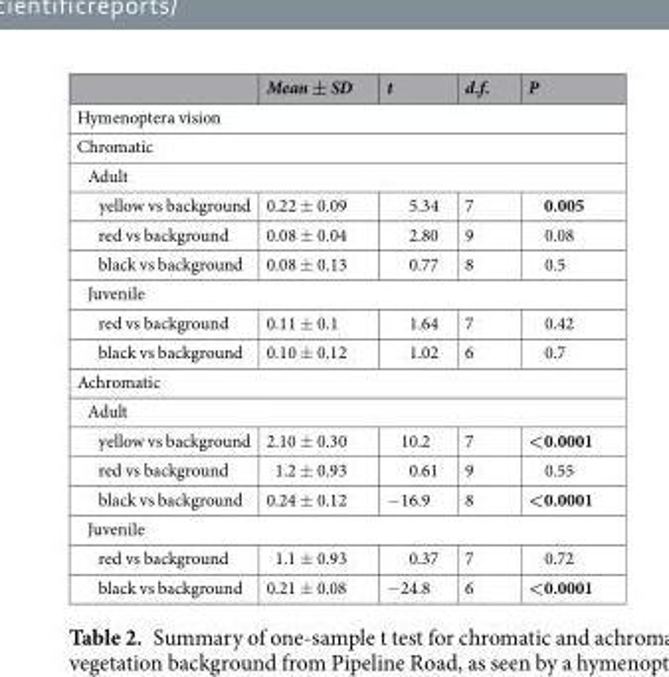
<table><thead><tr><td></td><td>Mean ± SD</td><td>t</td><td>d.f.</td><td>P</td></tr></thead><tbody><tr><td colspan="5">Hymenoptera vision</td></tr><tr><td colspan="5">Chromatic</td></tr><tr><td colspan="5">Adult</td></tr><tr><td>yellow vs background</td><td>0.22 ± 0.09</td><td>5.34</td><td>7</td><td>0.005</td></tr><tr><td>red vs background</td><td>0.08 ± 0.04</td><td>2.80</td><td>9</td><td>0.08</td></tr><tr><td>black vs background</td><td>0.08 ± 0.13</td><td>0.77</td><td>8</td><td>0.5</td></tr><tr><td colspan="5">Juvenile</td></tr><tr><td>red vs background</td><td>0.11 ± 0.1</td><td>1.64</td><td>7</td><td>0.42</td></tr><tr><td>black vs background</td><td>0.10 ± 0.12</td><td>1.02</td><td>6</td><td>0.7</td></tr><tr><td colspan="5">Achromatic</td></tr><tr><td colspan="5">Adult</td></tr><tr><td>yellow vs background</td><td>2.10 ± 0.30</td><td>10.2</td><td>7</td><td>&lt;0.0001</td></tr><tr><td>red vs background</td><td>1.2 ± 0.93</td><td>0.61</td><td>9</td><td>0.55</td></tr><tr><td>black vs background</td><td>0.24 ± 0.12</td><td>−16.9</td><td>8</td><td>&lt;0.0001</td></tr><tr><td colspan="5">Juvenile</td></tr><tr><td>red vs background</td><td>1.1 ± 0.93</td><td>0.37</td><td>7</td><td>0.72</td></tr><tr><td>black vs background</td><td>0.21 ± 0.08</td><td>−24.8</td><td>6</td><td>&lt;0.0001</td></tr></tbody></table>